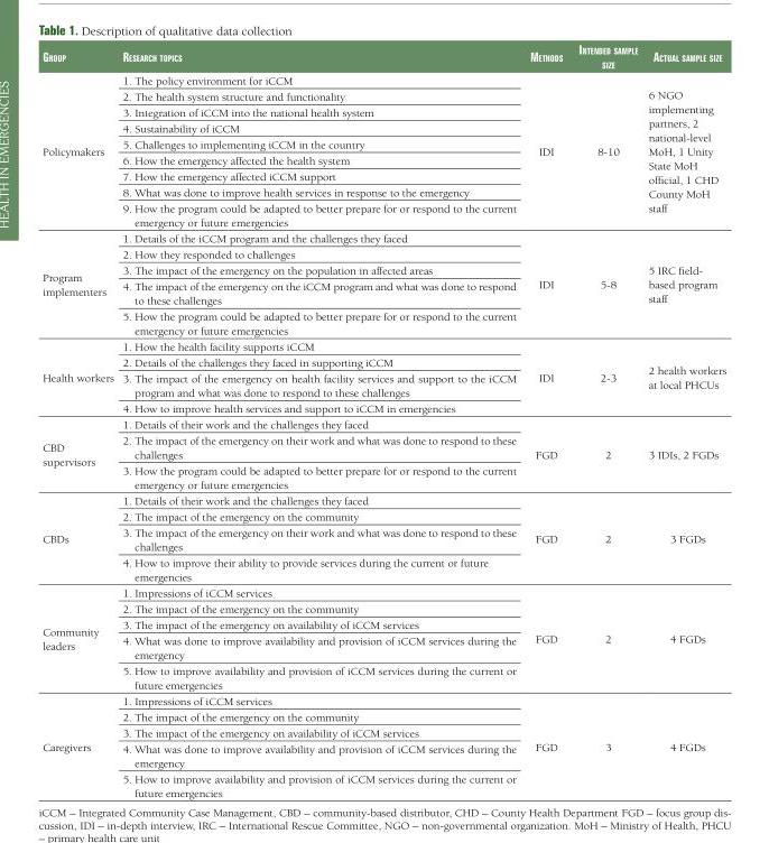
<table><thead><tr><td>Group</td><td>research topics</td><td>Methods</td><td>intended saMple size</td><td>actual saMple size</td></tr></thead><tbody><tr><td rowspan="9">Policymakers</td><td>1. The policy environment for iCCM</td><td rowspan="9">IDI</td><td rowspan="9">8-10</td><td rowspan="9">6 NGO implementing partners, 2 national-level MoH, 1 Unity State MoH official, 1 CHD County MoH staff</td></tr><tr><td>2. The health system structure and functionality</td></tr><tr><td>3. Integration of iCCM into the national health system</td></tr><tr><td>4. Sustainability of iCCM</td></tr><tr><td>5. Challenges to implementing iCCM in the country</td></tr><tr><td>6. How the emergency affected the health system</td></tr><tr><td>7. How the emergency affected iCCM support</td></tr><tr><td>8. What was done to improve health services in response to the emergency</td></tr><tr><td>9. How the program could be adapted to better prepare for or respond to the current emergency or future emergencies</td></tr><tr><td rowspan="5">Program implementers</td><td>1. Details of the iCCM program and the challenges they faced</td><td rowspan="5">IDI</td><td rowspan="5">5-8</td><td rowspan="5">5 IRC field- based program staff</td></tr><tr><td>2. How they responded to challenges</td></tr><tr><td>3. The impact of the emergency on the population in affected areas</td></tr><tr><td>4. The impact of the emergency on the iCCM program and what was done to respond to these challenges</td></tr><tr><td>5. How the program could be adapted to better prepare for or respond to the current emergency or future emergencies</td></tr><tr><td rowspan="4">Health workers</td><td>1. How the health facility supports iCCM</td><td rowspan="4">IDI</td><td rowspan="4">2-3</td><td rowspan="4">2 health workers at local PHCUs</td></tr><tr><td>2. Details of the challenges they faced in supporting iCCM</td></tr><tr><td>3. The impact of the emergency on health facility services and support to the iCCM program and what was done to respond to these challenges</td></tr><tr><td>4. How to improve health services and support to iCCM in emergencies</td></tr><tr><td rowspan="3">CBD supervisors</td><td>1. Details of their work and the challenges they faced</td><td rowspan="3">FGD</td><td rowspan="3">2</td><td rowspan="3">3 IDIs, 2 FGDs</td></tr><tr><td>2. The impact of the emergency on their work and what was done to respond to these challenges</td></tr><tr><td>3. How the program could be adapted to better prepare for or respond to the current emergency or future emergencies</td></tr><tr><td rowspan="4">CBDs</td><td>1. Details of their work and the challenges they faced</td><td rowspan="4">FGD</td><td rowspan="4">2</td><td rowspan="4">3 FGDs</td></tr><tr><td>2. The impact of the emergency on the community</td></tr><tr><td>3. The impact of the emergency on their work and what was done to respond to these challenges</td></tr><tr><td>4. How to improve their ability to provide services during the current or future emergencies</td></tr><tr><td rowspan="5">Community leaders</td><td>1. Impressions of iCCM services</td><td rowspan="5">FGD</td><td rowspan="5">2</td><td rowspan="5">4 FGDs</td></tr><tr><td>2. The impact of the emergency on the community</td></tr><tr><td>3. The impact of the emergency on availability of iCCM services</td></tr><tr><td>4. What was done to improve availability and provision of iCCM services during the emergency</td></tr><tr><td>5. How to improve availability and provision of iCCM services during the current or future emergencies</td></tr><tr><td rowspan="5">Caregivers</td><td>1. Impressions of iCCM services</td><td rowspan="5">FGD</td><td rowspan="5">3</td><td rowspan="5">4 FGDs</td></tr><tr><td>2. The impact of the emergency on the community</td></tr><tr><td>3. The impact of the emergency on availability of iCCM services</td></tr><tr><td>4. What was done to improve availability and provision of iCCM services during the emergency</td></tr><tr><td>5. How to improve availability and provision of iCCM services during the current or future emergencies</td></tr></tbody></table>